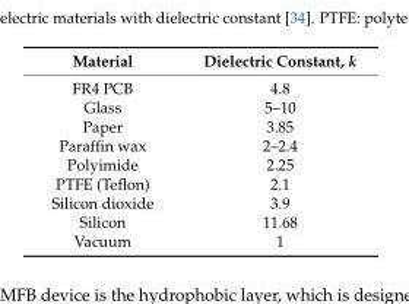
<table><thead><tr><td>Material</td><td>Dielectric Constant, k</td></tr></thead><tbody><tr><td>FR4 PCB</td><td>4.8</td></tr><tr><td>Glass</td><td>5–10</td></tr><tr><td>Paper</td><td>3.85</td></tr><tr><td>Paraffin wax</td><td>2–2.4</td></tr><tr><td>Polyimide</td><td>2.25</td></tr><tr><td>PTFE (Teflon)</td><td>2.1</td></tr><tr><td>Silicon dioxide</td><td>3.9</td></tr><tr><td>Silicon</td><td>11.68</td></tr><tr><td>Vacuum</td><td>1</td></tr></tbody></table>